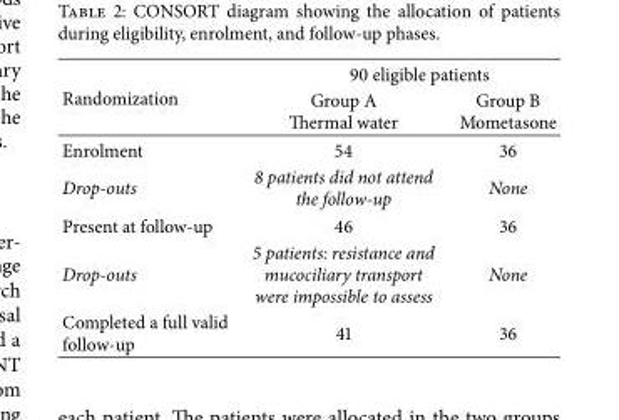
<table><thead><tr><td rowspan="2">Randomization</td><td colspan="2">90 eligible patients</td></tr><tr><td>Group A Thermal water</td><td>Group B Mometasone</td></tr></thead><tbody><tr><td>Enrolment</td><td>54</td><td>36</td></tr><tr><td>Drop-outs</td><td>8 patients did not attend the follow-up</td><td>None</td></tr><tr><td>Present at follow-up</td><td>46</td><td>36</td></tr><tr><td>Drop-outs</td><td>5 patients: resistance and mucociliary transport were impossible to assess</td><td>None</td></tr><tr><td>Completed a full valid follow-up</td><td>41</td><td>36</td></tr></tbody></table>